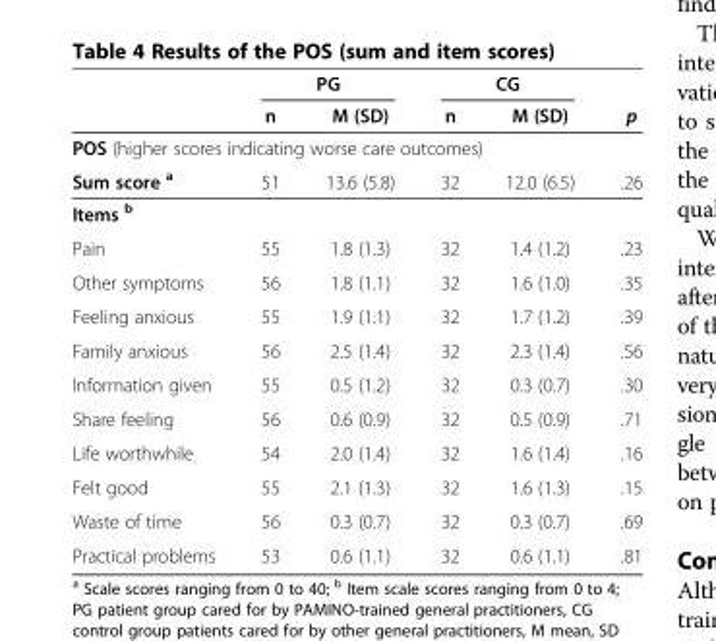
<table><thead><tr><td rowspan="2"></td><td colspan="2">PG</td><td colspan="2">CG</td><td rowspan="2">p</td></tr><tr><td>n</td><td>M (SD)</td><td>n</td><td>M (SD)</td></tr></thead><tbody><tr><td colspan="6">POS (higher scores indicating worse care outcomes)</td></tr><tr><td>Sum score <sup>a</sup></td><td>51</td><td>13.6 (5.8)</td><td>32</td><td>12.0 (6.5)</td><td>.26</td></tr><tr><td colspan="6">Items <sup>b</sup></td></tr><tr><td>Pain</td><td>55</td><td>1.8 (1.3)</td><td>32</td><td>1.4 (1.2)</td><td>.23</td></tr><tr><td>Other symptoms</td><td>56</td><td>1.8 (1.1)</td><td>32</td><td>1.6 (1.0)</td><td>.35</td></tr><tr><td>Feeling anxious</td><td>55</td><td>1.9 (1.1)</td><td>32</td><td>1.7 (1.2)</td><td>.39</td></tr><tr><td>Family anxious</td><td>56</td><td>2.5 (1.4)</td><td>32</td><td>2.3 (1.4)</td><td>.56</td></tr><tr><td>Information given</td><td>55</td><td>0.5 (1.2)</td><td>32</td><td>0.3 (0.7)</td><td>.30</td></tr><tr><td>Share feeling</td><td>56</td><td>0.6 (0.9)</td><td>32</td><td>0.5 (0.9)</td><td>.71</td></tr><tr><td>Life worthwhile</td><td>54</td><td>2.0 (1.4)</td><td>32</td><td>1.6 (1.4)</td><td>.16</td></tr><tr><td>Felt good</td><td>55</td><td>2.1 (1.3)</td><td>32</td><td>1.6 (1.3)</td><td>.15</td></tr><tr><td>Waste of time</td><td>56</td><td>0.3 (0.7)</td><td>32</td><td>0.3 (0.7)</td><td>.69</td></tr><tr><td>Practical problems</td><td>53</td><td>0.6 (1.1)</td><td>32</td><td>0.6 (1.1)</td><td>.81</td></tr></tbody></table>